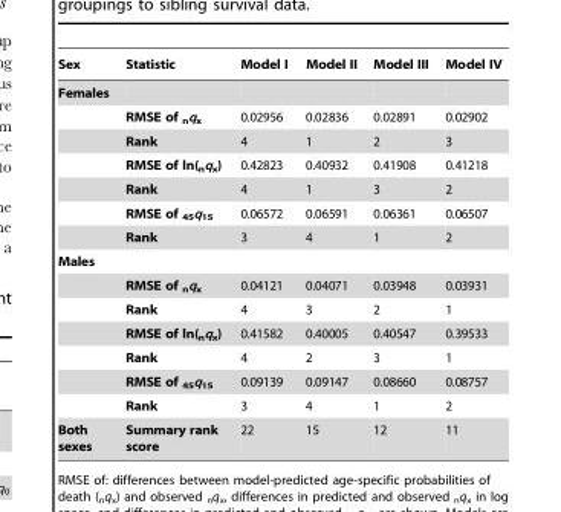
<table><thead><tr><td>Sex</td><td>Statistic</td><td>Model I</td><td>Model II</td><td>Model III</td><td>Model IV</td></tr></thead><tbody><tr><td colspan="6">Females</td></tr><tr><td></td><td>RMSE of <sub>n</sub>q<sub>x</sub></td><td>0.02956</td><td>0.02836</td><td>0.02891</td><td>0.02902</td></tr><tr><td></td><td>Rank</td><td>4</td><td>1</td><td>2</td><td>3</td></tr><tr><td></td><td>RMSE of ln(<sub>n</sub>q<sub>x</sub>)</td><td>0.42823</td><td>0.40932</td><td>0.41908</td><td>0.41218</td></tr><tr><td></td><td>Rank</td><td>4</td><td>1</td><td>3</td><td>2</td></tr><tr><td></td><td>RMSE of <sub>45</sub>q<sub>15</sub></td><td>0.06572</td><td>0.06591</td><td>0.06361</td><td>0.06507</td></tr><tr><td></td><td>Rank</td><td>3</td><td>4</td><td>1</td><td>2</td></tr><tr><td colspan="6">Males</td></tr><tr><td></td><td>RMSE of <sub>n</sub>q<sub>x</sub></td><td>0.04121</td><td>0.04071</td><td>0.03948</td><td>0.03931</td></tr><tr><td></td><td>Rank</td><td>4</td><td>3</td><td>2</td><td>1</td></tr><tr><td></td><td>RMSE of ln(<sub>n</sub>q<sub>x</sub>)</td><td>0.41582</td><td>0.40005</td><td>0.40547</td><td>0.39533</td></tr><tr><td></td><td>Rank</td><td>4</td><td>2</td><td>3</td><td>1</td></tr><tr><td></td><td>RMSE of <sub>45</sub>q<sub>15</sub></td><td>0.09139</td><td>0.09147</td><td>0.08660</td><td>0.08757</td></tr><tr><td></td><td>Rank</td><td>3</td><td>4</td><td>1</td><td>2</td></tr><tr><td>Both sexes</td><td>Summary rank score</td><td>22</td><td>15</td><td>12</td><td>11</td></tr></tbody></table>